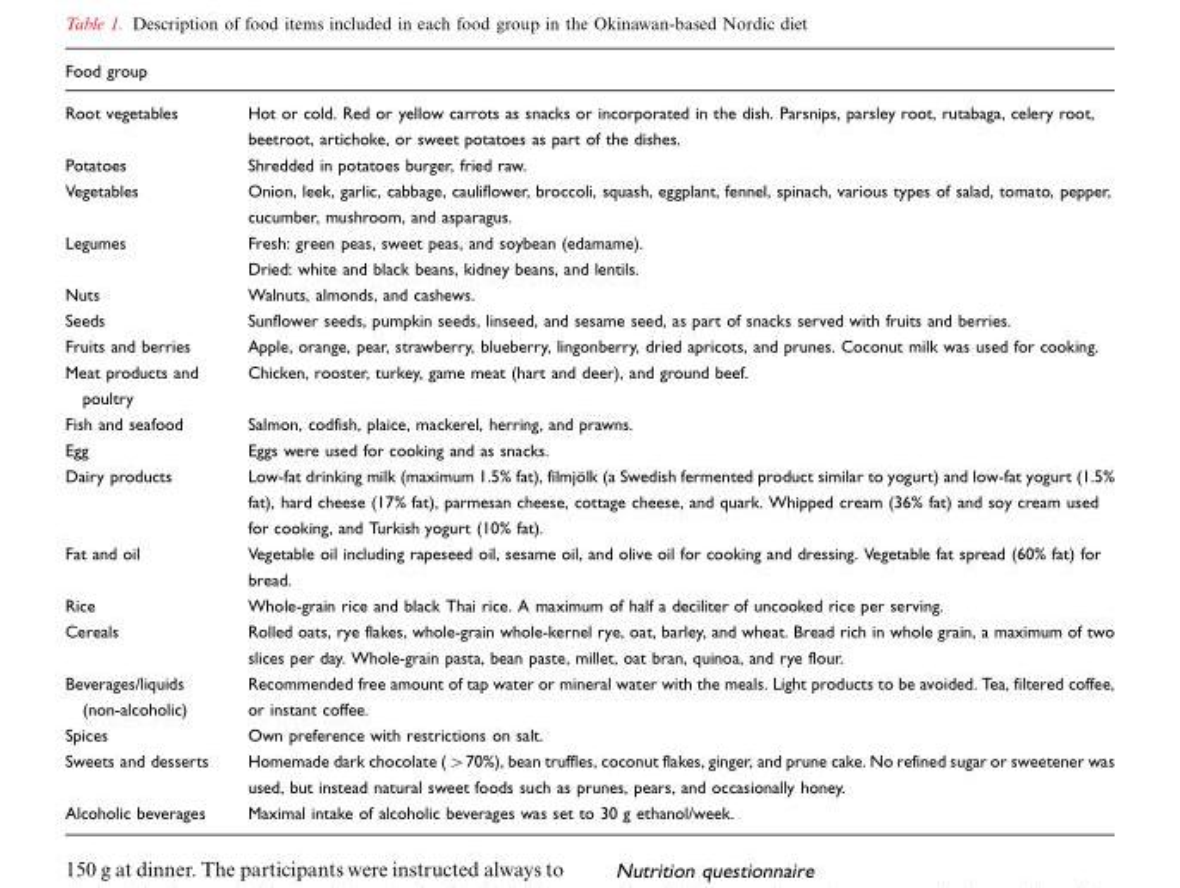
<table><thead><tr><td>Food group</td><td></td></tr></thead><tbody><tr><td>Root vegetables</td><td>Hot or cold. Red or yellow carrots as snacks or incorporated in the dish. Parsnips, parsley root, rutabaga, celery root, beetroot, artichoke, or sweet potatoes as part of the dishes.</td></tr><tr><td>Potatoes</td><td>Shredded in potatoes burger, fried raw.</td></tr><tr><td>Vegetables</td><td>Onion, leek, garlic, cabbage, cauliflower, broccoli, squash, eggplant, fennel, spinach, various types of salad, tomato, pepper, cucumber, mushroom, and asparagus.</td></tr><tr><td rowspan="2">Legumes</td><td>Fresh: green peas, sweet peas, and soybean (edamame).</td></tr><tr><td>Dried: white and black beans, kidney beans, and lentils.</td></tr><tr><td>Nuts</td><td>Walnuts, almonds, and cashews.</td></tr><tr><td>Seeds</td><td>Sunflower seeds, pumpkin seeds, linseed, and sesame seed, as part of snacks served with fruits and berries.</td></tr><tr><td>Fruits and berries</td><td>Apple, orange, pear, strawberry, blueberry, lingonberry, dried apricots, and prunes. Coconut milk was used for cooking.</td></tr><tr><td>Meat products and poultry</td><td>Chicken, rooster, turkey, game meat (hart and deer), and ground beef.</td></tr><tr><td>Fish and seafood</td><td>Salmon, codfish, plaice, mackerel, herring, and prawns.</td></tr><tr><td>Egg</td><td>Eggs were used for cooking and as snacks.</td></tr><tr><td>Dairy products</td><td>Low-fat drinking milk (maximum 1.5% fat), filmjo¨lk (a Swedish fermented product similar to yogurt) and low-fat yogurt (1.5% fat), hard cheese (17% fat), parmesan cheese, cottage cheese, and quark. Whipped cream (36% fat) and soy cream used for cooking, and Turkish yogurt (10% fat).</td></tr><tr><td>Fat and oil</td><td>Vegetable oil including rapeseed oil, sesame oil, and olive oil for cooking and dressing. Vegetable fat spread (60% fat) for bread.</td></tr><tr><td>Rice</td><td>Whole-grain rice and black Thai rice. A maximum of half a deciliter of uncooked rice per serving.</td></tr><tr><td>Cereals</td><td>Rolled oats, rye flakes, whole-grain whole-kernel rye, oat, barley, and wheat. Bread rich in whole grain, a maximum of two slices per day. Whole-grain pasta, bean paste, millet, oat bran, quinoa, and rye flour.</td></tr><tr><td>Beverages/liquids (non-alcoholic)</td><td>Recommended free amount of tap water or mineral water with the meals. Light products to be avoided. Tea, filtered coffee, or instant coffee.</td></tr><tr><td>Spices</td><td>Own preference with restrictions on salt.</td></tr><tr><td>Sweets and desserts</td><td>Homemade dark chocolate (&gt;70%), bean truffles, coconut flakes, ginger, and prune cake. No refined sugar or sweetener was used, but instead natural sweet foods such as prunes, pears, and occasionally honey.</td></tr><tr><td>Alcoholic beverages</td><td>Maximal intake of alcoholic beverages was set to 30 g ethanol/week.</td></tr></tbody></table>